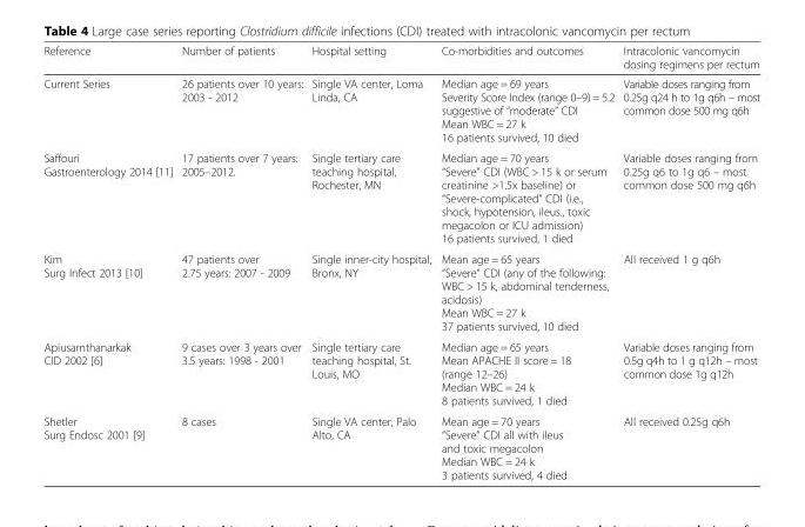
<table><thead><tr><td>Reference</td><td>Number of patients</td><td>Hospital setting</td><td>Co-morbidities and outcomes</td><td>Intracolonic vancomycin dosing regimens per rectum</td></tr></thead><tbody><tr><td>Current Series</td><td>26 patients over 10 years: 2003 - 2012</td><td>Single VA center, Loma Linda, CA</td><td>Median age = 69 years Severity Score Index (range 0–9) = 5.2 suggestive of “moderate” CDI Mean WBC = 27 k 16 patients survived, 10 died</td><td>Variable doses ranging from 0.25g q24 h to 1g q6h – most common dose 500 mg q6h</td></tr><tr><td>Saffouri Gastroenterology 2014 [11]</td><td>17 patients over 7 years: 2005–2012.</td><td>Single tertiary care teaching hospital, Rochester, MN</td><td>Median age = 70 years “Severe” CDI (WBC &gt; 15 k or serum creatinine &gt;1.5x baseline) or “Severe-complicated” CDI (i.e., shock, hypotension, ileus., toxic megacolon or ICU admission) 16 patients survived, 1 died</td><td>Variable doses ranging from 0.25g q6 to 1g q6 – most common dose 500 mg q6h</td></tr><tr><td>Kim Surg Infect 2013 [10]</td><td>47 patients over 2.75 years: 2007 - 2009</td><td>Single inner-city hospital, Bronx, NY</td><td>Mean age = 65 years “Severe” CDI (any of the following: WBC &gt; 15 k, abdominal tenderness, acidosis) Mean WBC = 27 k 37 patients survived, 10 died</td><td>All received 1 g q6h</td></tr><tr><td>Apiusarnthanarkak CID 2002 [6]</td><td>9 cases over 3 years over 3.5 years: 1998 - 2001</td><td>Single tertiary care teaching hospital, St. Louis, MO</td><td>Median age = 65 years Mean APACHE II score = 18 (range 12–26) Median WBC = 24 k 8 patients survived, 1 died</td><td>Variable doses ranging from 0.5g q4h to 1 g q12h – most common dose 1g q12h</td></tr><tr><td>Shetler Surg Endosc 2001 [9]</td><td>8 cases</td><td>Single VA center, Palo Alto, CA</td><td>Mean age = 70 years “Severe” CDI all with ileus and toxic megacolon Median WBC = 24 k 3 patients survived, 4 died</td><td>All received 0.25g q6h</td></tr></tbody></table>